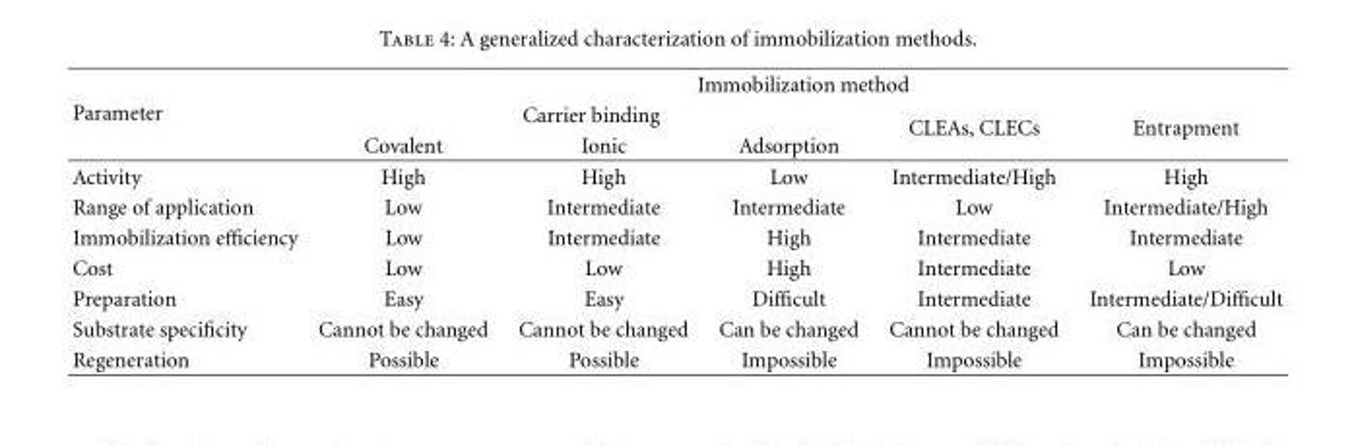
<table><thead><tr><td rowspan="3">Parameter</td><td colspan="5">Immobilization method</td></tr><tr><td colspan="3">Carrier binding</td><td rowspan="2">CLEAs, CLECs</td><td rowspan="2">Entrapment</td></tr><tr><td>Covalent</td><td>Ionic</td><td>Adsorption</td></tr></thead><tbody><tr><td>Activity</td><td>High</td><td>High</td><td>Low</td><td>Intermediate/High</td><td>High</td></tr><tr><td>Range of application</td><td>Low</td><td>Intermediate</td><td>Intermediate</td><td>Low</td><td>Intermediate/High</td></tr><tr><td>Immobilization efficiency</td><td>Low</td><td>Intermediate</td><td>High</td><td>Intermediate</td><td>Intermediate</td></tr><tr><td>Cost</td><td>Low</td><td>Low</td><td>High</td><td>Intermediate</td><td>Low</td></tr><tr><td>Preparation</td><td>Easy</td><td>Easy</td><td>Difficult</td><td>Intermediate</td><td>Intermediate/Difficult</td></tr><tr><td>Substrate specificity</td><td>Cannot be changed</td><td>Cannot be changed</td><td>Can be changed</td><td>Cannot be changed</td><td>Can be changed</td></tr><tr><td>Regeneration</td><td>Possible</td><td>Possible</td><td>Impossible</td><td>Impossible</td><td>Impossible</td></tr></tbody></table>